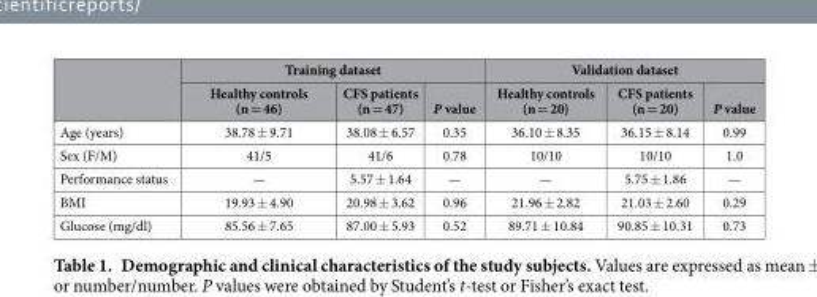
<table><thead><tr><td rowspan="2"></td><td colspan="3">Training dataset</td><td colspan="3">Validation dataset</td></tr><tr><td>Healthy controls (n = 46)</td><td>CFS patients (n = 47)</td><td>P value</td><td>Healthy controls (n = 20)</td><td>CFS patients (n = 20)</td><td>P value</td></tr></thead><tbody><tr><td>Age (years)</td><td>38.78 ± 9.71</td><td>38.08 ± 6.57</td><td>0.35</td><td>36.10 ± 8.35</td><td>36.15 ± 8.14</td><td>0.99</td></tr><tr><td>Sex (F/M)</td><td>41/5</td><td>41/6</td><td>0.78</td><td>10/10</td><td>10/10</td><td>1.0</td></tr><tr><td>Performance status</td><td>—</td><td>5.57 ± 1.64</td><td>—</td><td>—</td><td>5.75 ± 1.86</td><td>—</td></tr><tr><td>BMI</td><td>19.93 ± 4.90</td><td>20.98 ± 3.62</td><td>0.96</td><td>21.96 ± 2.82</td><td>21.03 ± 2.60</td><td>0.29</td></tr><tr><td>Glucose (mg/dl)</td><td>85.56 ± 7.65</td><td>87.00 ± 5.93</td><td>0.52</td><td>89.71 ± 10.84</td><td>90.85 ± 10.31</td><td>0.73</td></tr></tbody></table>